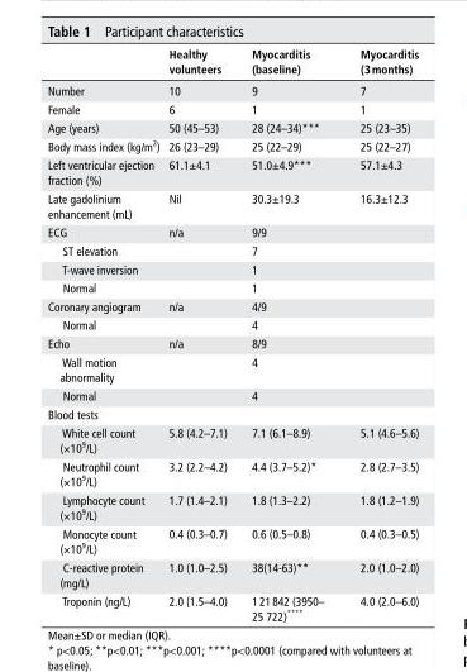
<table><thead><tr><td></td><td>Healthy volunteers</td><td>Myocarditis (baseline)</td><td>Myocarditis (3 months)</td></tr></thead><tbody><tr><td>Number</td><td>10</td><td>9</td><td>7</td></tr><tr><td>Female</td><td>6</td><td>1</td><td>1</td></tr><tr><td>Age (years)</td><td>50 (45–53)</td><td>28 (24–34)***</td><td>25 (23–35)</td></tr><tr><td>Body mass index (kg/m<sup>2</sup>)</td><td>26 (23–29)</td><td>25 (22–29)</td><td>25 (22–27)</td></tr><tr><td>Left ventricular ejection fraction (%)</td><td>61.1±4.1</td><td>51.0±4.9***</td><td>57.1±4.3</td></tr><tr><td>Late gadolinium enhancement (mL)</td><td>Nil</td><td>30.3±19.3</td><td>16.3±12.3</td></tr><tr><td>ECG</td><td>n/a</td><td>9/9</td><td></td></tr><tr><td>ST elevation</td><td></td><td>7</td><td></td></tr><tr><td>T-wave inversion</td><td></td><td>1</td><td></td></tr><tr><td>Normal</td><td></td><td>1</td><td></td></tr><tr><td>Coronary angiogram</td><td>n/a</td><td>4/9</td><td></td></tr><tr><td>Normal</td><td></td><td>4</td><td></td></tr><tr><td>Echo</td><td>n/a</td><td>8/9</td><td></td></tr><tr><td>Wall motion abnormality</td><td></td><td>4</td><td></td></tr><tr><td>Normal</td><td></td><td>4</td><td></td></tr><tr><td colspan="4">Blood tests</td></tr><tr><td>White cell count (×10<sup>9</sup>/L)</td><td>5.8 (4.2–7.1)</td><td>7.1 (6.1–8.9)</td><td>5.1 (4.6–5.6)</td></tr><tr><td>Neutrophil count (×10<sup>9</sup>/L)</td><td>3.2 (2.2–4.2)</td><td>4.4 (3.7–5.2)*</td><td>2.8 (2.7–3.5)</td></tr><tr><td>Lymphocyte count (×10<sup>9</sup>/L)</td><td>1.7 (1.4–2.1)</td><td>1.8 (1.3–2.2)</td><td>1.8 (1.2–1.9)</td></tr><tr><td>Monocyte count (×10<sup>9</sup>/L)</td><td>0.4 (0.3–0.7)</td><td>0.6 (0.5–0.8)</td><td>0.4 (0.3–0.5)</td></tr><tr><td>C-reactive protein (mg/L)</td><td>1.0 (1.0–2.5)</td><td>38(14-63)**</td><td>2.0 (1.0–2.0)</td></tr><tr><td>Troponin (ng/L)</td><td>2.0 {1.5–4.0)</td><td>1 21 842 (3950– 25 722)****</td><td>4.0 (2.0–6.0)</td></tr></tbody></table>